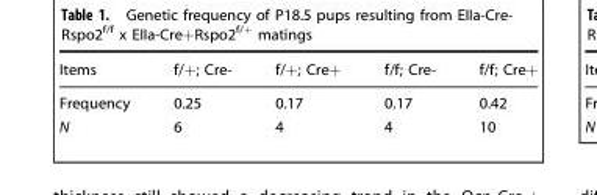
<table><thead><tr><td>Items</td><td>f/+; Cre-</td><td>f/+; Cre+</td><td>f/f; Cre-</td><td>f/f; Cre+</td></tr></thead><tbody><tr><td>Frequency</td><td>0.25</td><td>0.17</td><td>0.17</td><td>0.42</td></tr><tr><td>N</td><td>6</td><td>4</td><td>4</td><td>10</td></tr></tbody></table>